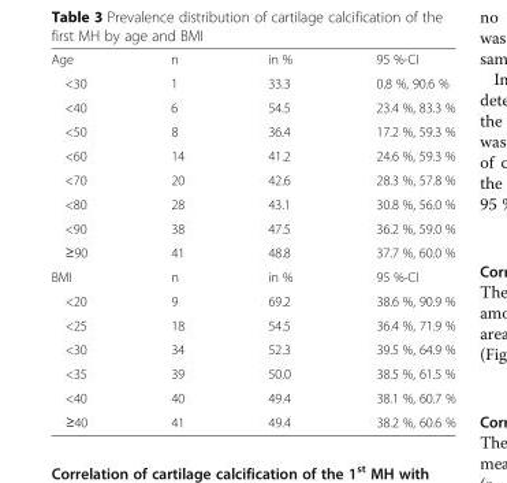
<table><tbody><tr><td>Age</td><td>n</td><td>in %</td><td>95 %-CI</td></tr><tr><td>&lt;30</td><td>1</td><td>33.3</td><td>0.8 %, 90.6 %</td></tr><tr><td>&lt;40</td><td>6</td><td>54.5</td><td>23.4 %, 83.3 %</td></tr><tr><td>&lt;50</td><td>8</td><td>36.4</td><td>17.2 %, 59.3 %</td></tr><tr><td>&lt;60</td><td>14</td><td>41.2</td><td>24.6 %, 59.3 %</td></tr><tr><td>&lt;70</td><td>20</td><td>42.6</td><td>28.3 %, 57.8 %</td></tr><tr><td>&lt;80</td><td>28</td><td>43.1</td><td>30.8 %, 56.0 %</td></tr><tr><td>&lt;90</td><td>38</td><td>47.5</td><td>36.2 %, 59.0 %</td></tr><tr><td>≥90</td><td>41</td><td>48.8</td><td>37.7 %, 60.0 %</td></tr><tr><td>BMI</td><td>n</td><td>in %</td><td>95 %-CI</td></tr><tr><td>&lt;20</td><td>9</td><td>69.2</td><td>38.6 %, 90.9 %</td></tr><tr><td>&lt;25</td><td>18</td><td>54.5</td><td>36.4 %, 71.9 %</td></tr><tr><td>&lt;30</td><td>34</td><td>52.3</td><td>39.5 %, 64.9 %</td></tr><tr><td>&lt;35</td><td>39</td><td>50.0</td><td>38.5 %, 61.5 %</td></tr><tr><td>&lt;40</td><td>40</td><td>49.4</td><td>38.1 %, 60.7 %</td></tr><tr><td>≥40</td><td>41</td><td>49.4</td><td>38.2 %, 60.6 %</td></tr></tbody></table>